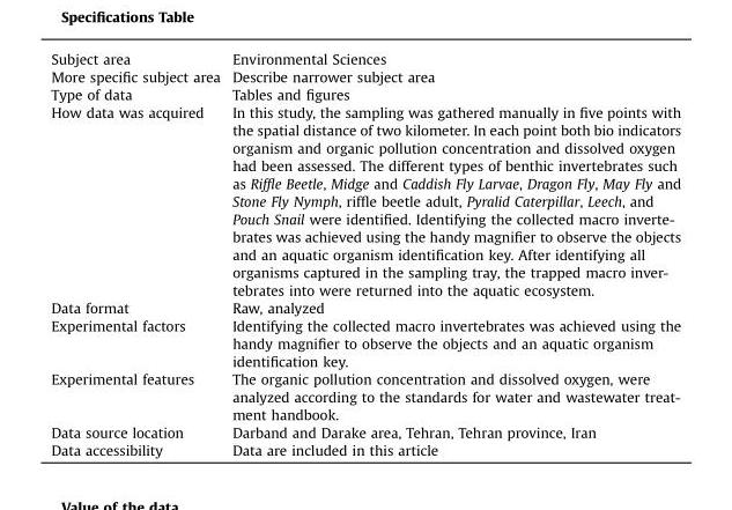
<table><tbody><tr><td>Subject area</td><td>Environmental Sciences</td></tr><tr><td>More specific subject area</td><td>Describe narrower subject area</td></tr><tr><td>Type of data</td><td>Tables and figures</td></tr><tr><td>How data was acquired</td><td>In this study, the sampling was gathered manually in five points with the spatial distance of two kilometer. In each point both bio indicators organism and organic pollution concentration and dissolved oxygen had been assessed. The different types of benthic invertebrates such as Riffle Beetle, Midge and Caddish Fly Larvae, Dragon Fly, May Fly and Stone Fly Nymph, riffle beetle adult, Pyralid Caterpillar, Leech, and Pouch Snail were identified. Identifying the collected macro inverte- brates was achieved using the handy magnifier to observe the objects and an aquatic organism identification key. After identifying all organisms captured in the sampling tray, the trapped macro inver- tebrates into were returned into the aquatic ecosystem.</td></tr><tr><td>Data format</td><td>Raw, analyzed</td></tr><tr><td>Experimental factors</td><td>Identifying the collected macro invertebrates was achieved using the handy magnifier to observe the objects and an aquatic organism identification key.</td></tr><tr><td>Experimental features</td><td>The organic pollution concentration and dissolved oxygen, were analyzed according to the standards for water and wastewater treat- ment handbook.</td></tr><tr><td>Data source location</td><td>Darband and Darake area, Tehran, Tehran province, Iran</td></tr><tr><td>Data accessibility</td><td>Data are included in this article</td></tr></tbody></table>